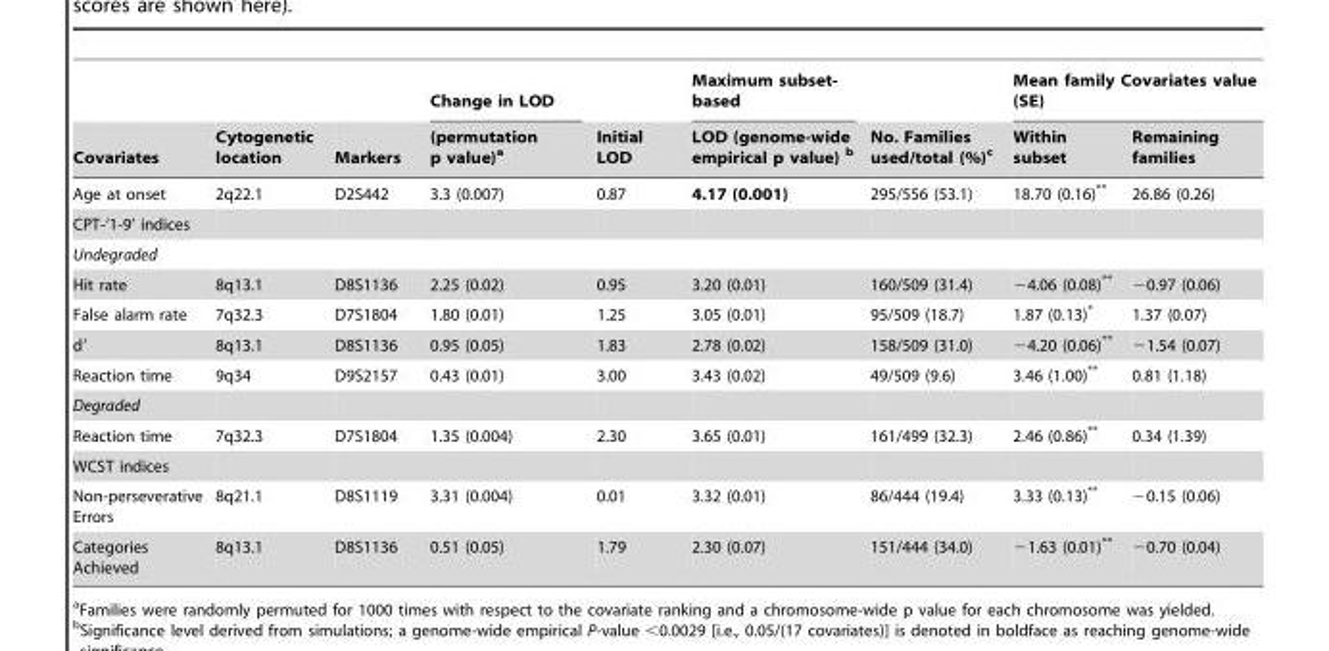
<table><thead><tr><td rowspan="2">Covariates</td><td rowspan="2">Cytogenetic location</td><td rowspan="2">Markers</td><td rowspan="2">Change in LOD (permutation p value)<sup>a</sup></td><td rowspan="2">Initial LOD</td><td rowspan="2">Maximum subset- based LOD (genome-wide empirical p value) b</td><td rowspan="2">No. Families used/total (%)<sup>c</sup></td><td colspan="2">Mean family Covariates value (SE)</td></tr><tr><td>Within subset</td><td>Remaining families</td></tr></thead><tbody><tr><td>Age at onset</td><td>2q22.1</td><td>D2S442</td><td>3.3 (0.007)</td><td>0.87</td><td>4.17 (0.001)</td><td>295/556 (53.1)</td><td>18.70 (0.16)**</td><td>26.86 (0.26)</td></tr><tr><td colspan="9">CPT-‘1-9’ indices</td></tr><tr><td colspan="9">Undegraded</td></tr><tr><td>Hit rate</td><td>8q13.1</td><td>D8S1136</td><td>2.25 (0.02)</td><td>0.95</td><td>3.20 (0.01)</td><td>160/509 (31.4)</td><td>−4.06 (0.08)**</td><td>−0.97 (0.06)</td></tr><tr><td>False alarm rate</td><td>7q32.3</td><td>D7S1804</td><td>1.80 (0.01)</td><td>1.25</td><td>3.05 (0.01)</td><td>95/509 (18.7)</td><td>1.87 (0.13)*</td><td>1.37 (0.07)</td></tr><tr><td>d′</td><td>8q13.1</td><td>D8S1136</td><td>0.95 (0.05)</td><td>1.83</td><td>2.78 (0.02)</td><td>158/509 (31.0)</td><td>−4.20 (0.06)**</td><td>−1.54 (0.07)</td></tr><tr><td>Reaction time</td><td>9q34</td><td>D9S2157</td><td>0.43 (0.01)</td><td>3.00</td><td>3.43 (0.02)</td><td>49/509 (9.6)</td><td>3.46 (1.00)**</td><td>0.81 (1.18)</td></tr><tr><td colspan="9">Degraded</td></tr><tr><td>Reaction time</td><td>7q32.3</td><td>D7S1804</td><td>1.35 (0.004)</td><td>2.30</td><td>3.65 (0.01)</td><td>161/499 (32.3)</td><td>2.46 (0.86)**</td><td>0.34 (1.39)</td></tr><tr><td colspan="9">WCST indices</td></tr><tr><td>Non-perseverative Errors</td><td>8q21.1</td><td>D8S1119</td><td>3.31 (0.004)</td><td>0.01</td><td>3.32 (0.01)</td><td>86/444 (19.4)</td><td>3.33 (0.13)**</td><td>−0.15 (0.06)</td></tr><tr><td>Categories Achieved</td><td>8q13.1</td><td>D8S1136</td><td>0.51 (0.05)</td><td>1.79</td><td>2.30 (0.07)</td><td>151/444 (34.0)</td><td>−1.63 (0.01)**</td><td>−0.70 (0.04)</td></tr></tbody></table>